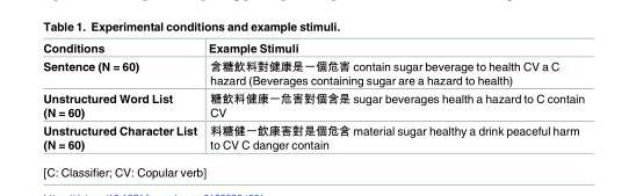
<table><thead><tr><td>Conditions</td><td>Example Stimuli</td></tr></thead><tbody><tr><td>Sentence (N = 60)</td><td>含糖飲料對健康是一個危害 contain sugar beverage to health CV a C hazard (Beverages containing sugar are a hazard to health)</td></tr><tr><td>Unstructured Word List (N = 60)</td><td>糖飲料健康一危害對個含是 sugar beverages health a hazard to C contain CV</td></tr><tr><td>Unstructured Character List (N = 60)</td><td>料糖健一飲康害對是個危含 material sugar healthy a drink peaceful harm to CV C danger contain</td></tr></tbody></table>